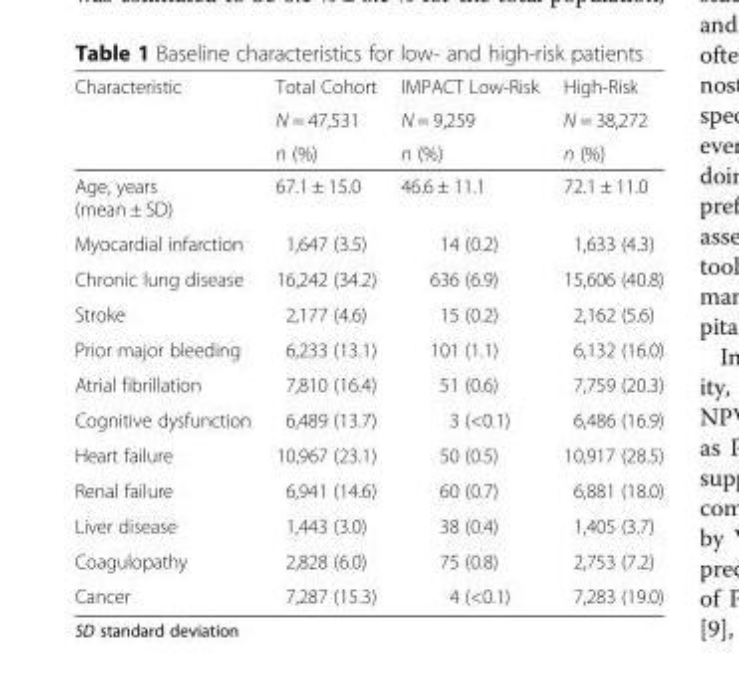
<table><thead><tr><td rowspan="3">Characteristic</td><td rowspan="3">Total Cohort N = 47,531 n (%)</td><td rowspan="3">IMPACT Low-Risk N = 9,259 n (%)</td><td rowspan="3">High-Risk N = 38,272 n (%)</td></tr><tr></tr><tr></tr></thead><tbody><tr><td>Age, years (mean ± SD)</td><td>67.1 ± 15.0</td><td>46.6 ± 11.1</td><td>72.1 ± 11.0</td></tr><tr><td>Myocardial infarction</td><td>1,647 (3.5)</td><td>14 (0.2)</td><td>1,633 (4.3)</td></tr><tr><td>Chronic lung disease</td><td>16,242 (34.2)</td><td>636 (6.9)</td><td>15,606 (40.8)</td></tr><tr><td>Stroke</td><td>2,177 (4.6)</td><td>15 (0.2)</td><td>2,162 (5.6)</td></tr><tr><td>Prior major bleeding</td><td>6,233 (13.1)</td><td>101 (1.1)</td><td>6,132 (16.0)</td></tr><tr><td>Atrial fibrillation</td><td>7,810 (16.4)</td><td>51 (0.6)</td><td>7,759 (20.3)</td></tr><tr><td>Cognitive dysfunction</td><td>6,489 (13.7)</td><td>3 (&lt;0.1)</td><td>6,486 (16.9)</td></tr><tr><td>Heart failure</td><td>10,967 (23.1)</td><td>50 (0.5)</td><td>10,917 (28.5)</td></tr><tr><td>Renal failure</td><td>6,941 (14.6)</td><td>60 (0.7)</td><td>6,881 (18.0)</td></tr><tr><td>Liver disease</td><td>1,443 (3.0)</td><td>38 (0.4)</td><td>1,405 (3.7)</td></tr><tr><td>Coagulopathy</td><td>2,828 (6.0)</td><td>75 (0.8)</td><td>2,753 (7.2)</td></tr><tr><td>Cancer</td><td>7,287 (15.3)</td><td>4 (&lt;0.1)</td><td>7,283 (19.0)</td></tr></tbody></table>